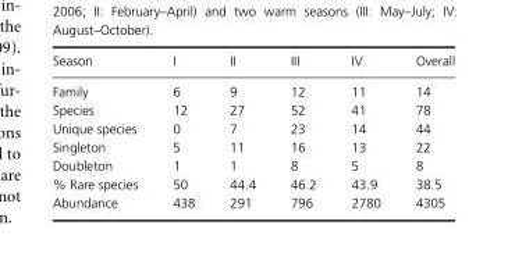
<table><thead><tr><td>Season</td><td>I</td><td>II</td><td>III</td><td>IV</td><td>Overall</td></tr></thead><tbody><tr><td>Family</td><td>6</td><td>9</td><td>12</td><td>11</td><td>14</td></tr><tr><td>Species</td><td>12</td><td>27</td><td>52</td><td>41</td><td>78</td></tr><tr><td>Unique species</td><td>0</td><td>7</td><td>23</td><td>14</td><td>44</td></tr><tr><td>Singleton</td><td>5</td><td>11</td><td>16</td><td>13</td><td>22</td></tr><tr><td>Doubleton</td><td>1</td><td>1</td><td>8</td><td>5</td><td>8</td></tr><tr><td>% Rare species</td><td>50</td><td>44.4</td><td>46.2</td><td>43.9</td><td>38.5</td></tr><tr><td>Abundance</td><td>438</td><td>291</td><td>796</td><td>2780</td><td>4305</td></tr></tbody></table>